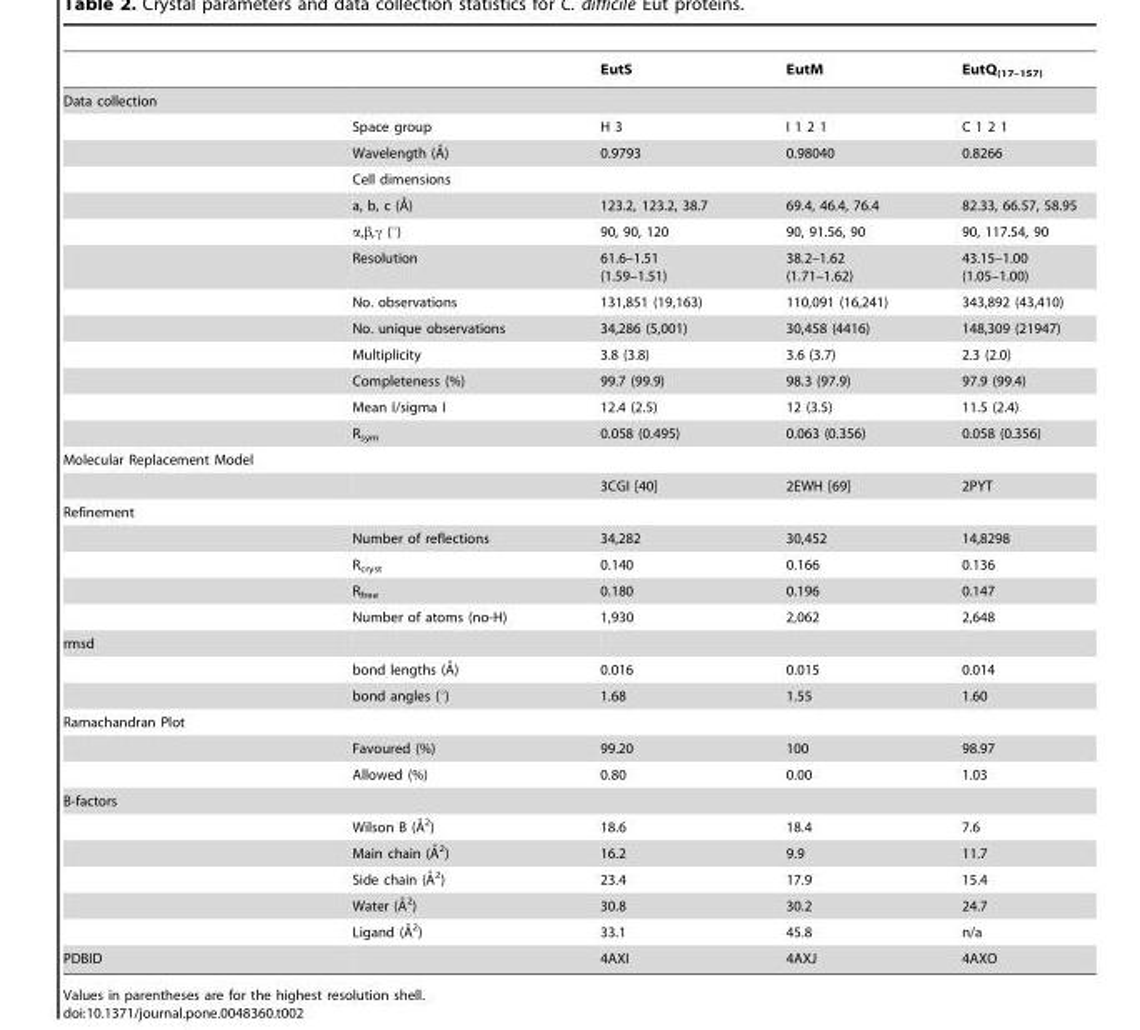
<table><thead><tr><td></td><td></td><td>EutS</td><td>EutM</td><td>EutQ<sub>(17–157)</sub></td></tr></thead><tbody><tr><td colspan="5">Data collection</td></tr><tr><td></td><td>Space group</td><td>H 3</td><td>I 1 2 1</td><td>C 1 2 1</td></tr><tr><td></td><td>Wavelength (A˚)</td><td>0.9793</td><td>0.98040</td><td>0.8266</td></tr><tr><td></td><td>Cell dimensions</td><td></td><td></td><td></td></tr><tr><td></td><td>a, b, c (A˚)</td><td>123.2, 123.2, 38.7</td><td>69.4, 46.4, 76.4</td><td>82.33, 66.57, 58.95</td></tr><tr><td></td><td>α,β,γ (°)</td><td>90, 90, 120</td><td>90, 91.56, 90</td><td>90, 117.54, 90</td></tr><tr><td></td><td>Resolution</td><td>61.6–1.51 (1.59–1.51)</td><td>38.2–1.62 (1.71–1.62)</td><td>43.15–1.00 (1.05–1.00)</td></tr><tr><td></td><td>No. observations</td><td>131,851 (19,163)</td><td>110,091 (16,241)</td><td>343,892 (43,410)</td></tr><tr><td></td><td>No. unique observations</td><td>34,286 (5,001)</td><td>30,458 (4416)</td><td>148,309 (21947)</td></tr><tr><td></td><td>Multiplicity</td><td>3.8 (3.8)</td><td>3.6 (3.7)</td><td>2.3 (2.0)</td></tr><tr><td></td><td>Completeness (%)</td><td>99.7 (99.9)</td><td>98.3 (97.9)</td><td>97.9 (99.4)</td></tr><tr><td></td><td>Mean I/sigma I</td><td>12.4 (2.5)</td><td>12 (3.5)</td><td>11.5 (2.4)</td></tr><tr><td></td><td>R<sub>sym</sub></td><td>0.058 (0.495)</td><td>0.063 (0.356)</td><td>0.058 (0.356)</td></tr><tr><td colspan="5">Molecular Replacement Model</td></tr><tr><td></td><td></td><td>3CGI [40]</td><td>2EWH [69]</td><td>2PYT</td></tr><tr><td colspan="5">Refinement</td></tr><tr><td></td><td>Number of reflections</td><td>34,282</td><td>30,452</td><td>14,8298</td></tr><tr><td></td><td>R<sub>cryst</sub></td><td>0.140</td><td>0.166</td><td>0.136</td></tr><tr><td></td><td>R<sub>free</sub></td><td>0.180</td><td>0.196</td><td>0.147</td></tr><tr><td></td><td>Number of atoms (no-H)</td><td>1,930</td><td>2,062</td><td>2,648</td></tr><tr><td colspan="5">rmsd</td></tr><tr><td></td><td>bond lengths (A˚)</td><td>0.016</td><td>0.015</td><td>0.014</td></tr><tr><td></td><td>bond angles (°)</td><td>1.68</td><td>1.55</td><td>1.60</td></tr><tr><td colspan="5">Ramachandran Plot</td></tr><tr><td></td><td>Favoured (%)</td><td>99.20</td><td>100</td><td>98.97</td></tr><tr><td></td><td>Allowed (%)</td><td>0.80</td><td>0.00</td><td>1.03</td></tr><tr><td colspan="5">B-factors</td></tr><tr><td></td><td>Wilson B (A˚ 2)</td><td>18.6</td><td>18.4</td><td>7.6</td></tr><tr><td></td><td>Main chain (A˚ 2)</td><td>16.2</td><td>9.9</td><td>11.7</td></tr><tr><td></td><td>Side chain (A˚ 2)</td><td>23.4</td><td>17.9</td><td>15.4</td></tr><tr><td></td><td>Water (A˚2)</td><td>30.8</td><td>30.2</td><td>24.7</td></tr><tr><td></td><td>Ligand (A˚ 2)</td><td>33.1</td><td>45.8</td><td>n/a</td></tr><tr><td>PDBID</td><td></td><td>4AXI</td><td>4AXJ</td><td>4AXO</td></tr></tbody></table>